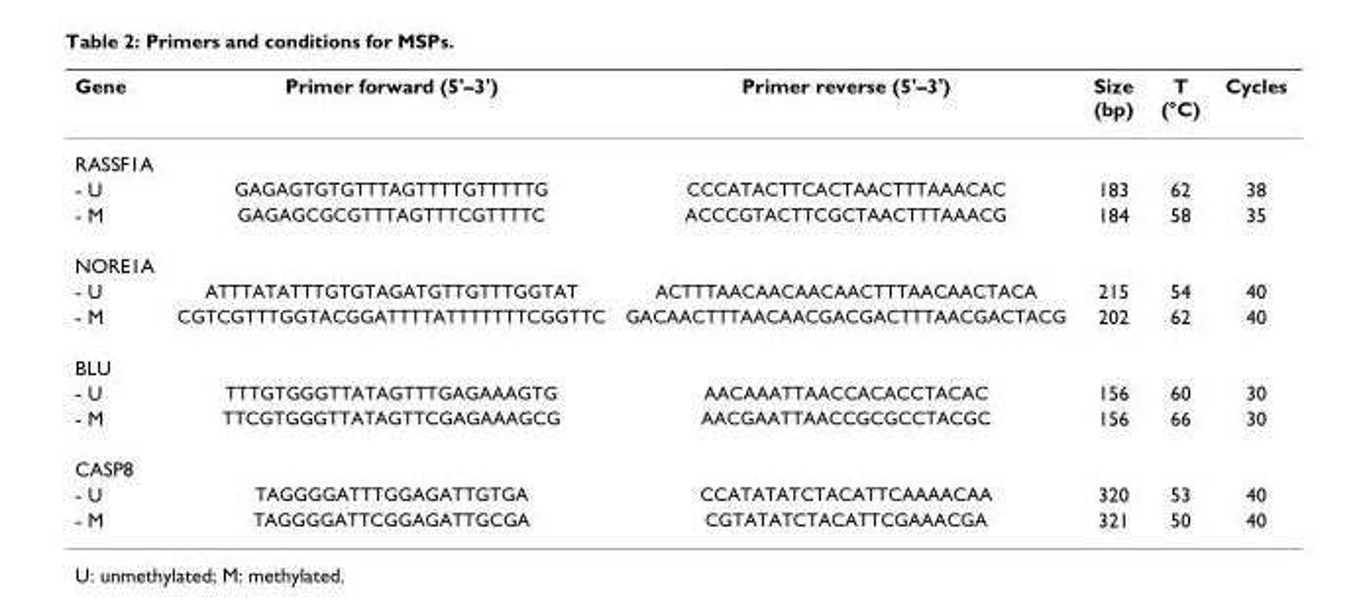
<table><thead><tr><td>Gene</td><td>Primer forward (5&#x27;–3&#x27;)</td><td>Primer reverse (5&#x27;–3&#x27;)</td><td>Size (bp)</td><td>T (°C)</td><td>Cycles</td></tr></thead><tbody><tr><td colspan="6">RASSF1A</td></tr><tr><td>- U</td><td>GAGAGTGTGTTTAGTTTTGTTTTTG</td><td>CCCATACTTCACTAACTTTAAACAC</td><td>183</td><td>62</td><td>38</td></tr><tr><td>- M</td><td>GAGAGCGCGTTTAGTTTCGTTTTC</td><td>ACCCGTACTTCGCTAACTTTAAACG</td><td>184</td><td>58</td><td>35</td></tr><tr><td colspan="6">NORE1A</td></tr><tr><td>- U</td><td>ATTTATATTTGTGTAGATGTTGTTTGGTAT</td><td>ACTTTAACAACAACAACTTTAACAACTACA</td><td>215</td><td>54</td><td>40</td></tr><tr><td>- M</td><td>CGTCGTTTGGTACGGATTTTATTTTTTTCGGTTC</td><td>GACAACTTTAACAACGACGACTTTAACGACTACG</td><td>202</td><td>62</td><td>40</td></tr><tr><td colspan="6">BLU</td></tr><tr><td>- U</td><td>TTTGTGGGTTATAGTTTGAGAAAGTG</td><td>AACAAATTAACCACACCTACAC</td><td>156</td><td>60</td><td>30</td></tr><tr><td>- M</td><td>TTCGTGGGTTATAGTTCGAGAAAGCG</td><td>AACGAATTAACCGCGCCTACGC</td><td>156</td><td>66</td><td>30</td></tr><tr><td colspan="6">CASP8</td></tr><tr><td>- U</td><td>TAGGGGATTTGGAGATTGTGA</td><td>CCATATATCTACATTCAAAACAA</td><td>320</td><td>53</td><td>40</td></tr><tr><td>- M</td><td>TAGGGGATTCGGAGATTGCGA</td><td>CGTATATCTACATTCGAAACGA</td><td>321</td><td>50</td><td>40</td></tr></tbody></table>